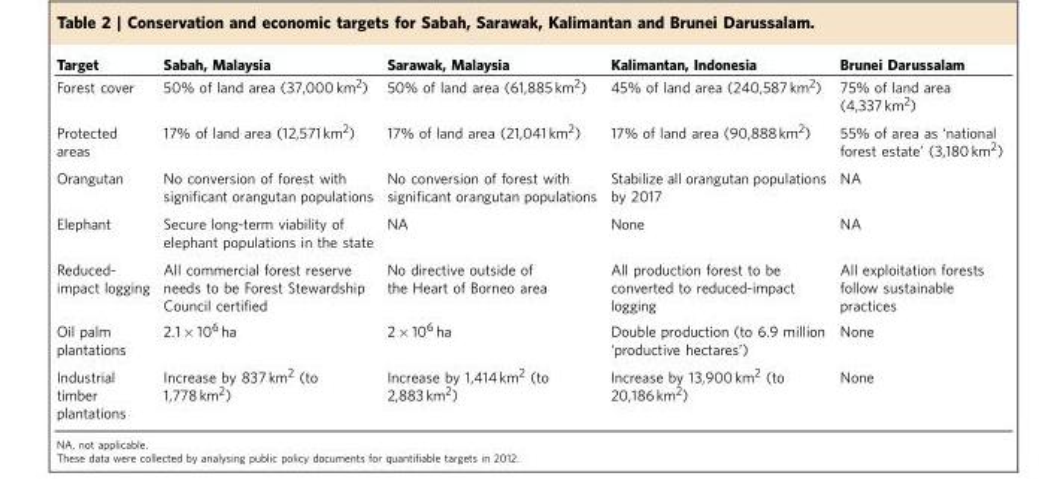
<table><thead><tr><td>Target</td><td>Sabah, Malaysia</td><td>Sarawak, Malaysia</td><td>Kalimantan, Indonesia</td><td>Brunei Darussalam</td></tr></thead><tbody><tr><td>Forest cover</td><td>50% of land area (37,000 km<sup>2</sup>)</td><td>50% of land area (61,885 km<sup>2</sup>)</td><td>45% of land area (240,587 km<sup>2</sup>)</td><td>75% of land area (4,337 km<sup>2</sup>)</td></tr><tr><td>Protected areas</td><td>17% of land area (12,571 km<sup>2</sup>)</td><td>17% of land area (21,041 km<sup>2</sup>)</td><td>17% of land area (90,888 km<sup>2</sup>)</td><td>55% of area as ‘national forest estate’ (3,180 km<sup>2</sup>)</td></tr><tr><td>Orangutan</td><td>No conversion of forest with significant orangutan populations</td><td>No conversion of forest with significant orangutan populations</td><td>Stabilize all orangutan populations by 2017</td><td>NA</td></tr><tr><td>Elephant</td><td>Secure long-term viability of elephant populations in the state</td><td>NA</td><td>None</td><td>NA</td></tr><tr><td>Reduced- impact logging</td><td>All commercial forest reserve needs to be Forest Stewardship Council certified</td><td>No directive outside of the Heart of Borneo area</td><td>All production forest to be converted to reduced-impact logging</td><td>All exploitation forests follow sustainable practices</td></tr><tr><td>Oil palm plantations</td><td>2.1 × 10<sup>6</sup> ha</td><td>2 × 10<sup>6</sup> ha</td><td>Double production (to 6.9 million ‘productive hectares’)</td><td>None</td></tr><tr><td>Industrial timber plantations</td><td>Increase by 837 km<sup>2</sup> (to 1,778 km<sup>2</sup>)</td><td>Increase by 1,414 km<sup>2</sup> (to 2,883 km<sup>2</sup>)</td><td>Increase by 13,900 km<sup>2</sup> (to 20,186 km<sup>2</sup>)</td><td>None</td></tr></tbody></table>